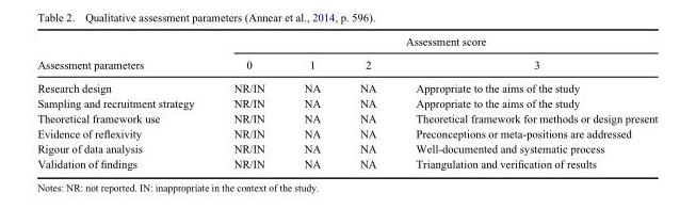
<table><thead><tr><td rowspan="2">Assessment parameters</td><td colspan="4">Assessment score</td></tr><tr><td>0</td><td>1</td><td>2</td><td>3</td></tr></thead><tbody><tr><td>Research design</td><td>NR/IN</td><td>NA</td><td>NA</td><td>Appropriate to the aims of the study</td></tr><tr><td>Sampling and recruitment strategy</td><td>NR/IN</td><td>NA</td><td>NA</td><td>Appropriate to the aims of the study</td></tr><tr><td>Theoretical framework use</td><td>NR/IN</td><td>NA</td><td>NA</td><td>Theoretical framework for methods or design present</td></tr><tr><td>Evidence of reflexivity</td><td>NR/IN</td><td>NA</td><td>NA</td><td>Preconceptions or meta-positions are addressed</td></tr><tr><td>Rigour of data analysis</td><td>NR/IN</td><td>NA</td><td>NA</td><td>Well-documented and systematic process</td></tr><tr><td>Validation of findings</td><td>NR/IN</td><td>NA</td><td>NA</td><td>Triangulation and verification of results</td></tr></tbody></table>